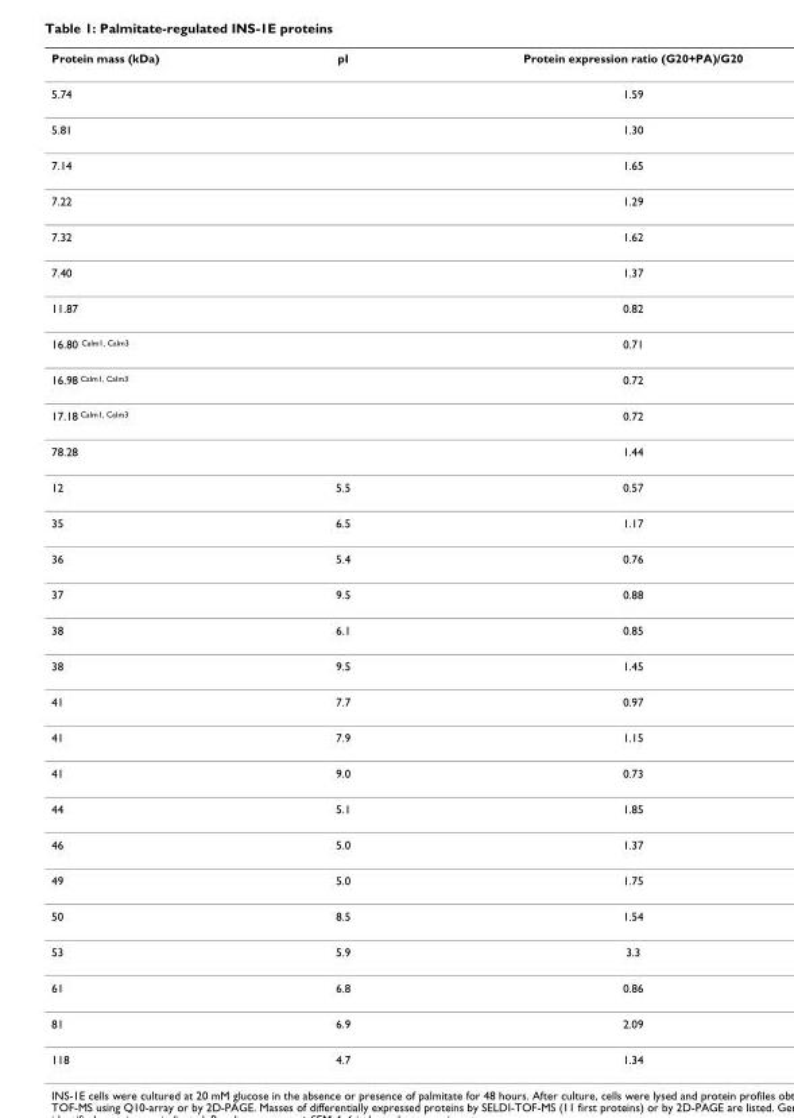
<table><thead><tr><td>Protein mass (kDa)</td><td>pI</td><td>Protein expression ratio (G20+PA)/G20</td></tr></thead><tbody><tr><td>5.74</td><td></td><td>1.59</td></tr><tr><td>5.81</td><td></td><td>1.30</td></tr><tr><td>7.14</td><td></td><td>1.65</td></tr><tr><td>7.22</td><td></td><td>1.29</td></tr><tr><td>7.32</td><td></td><td>1.62</td></tr><tr><td>7.40</td><td></td><td>1.37</td></tr><tr><td>11.87</td><td></td><td>0.82</td></tr><tr><td>16.80 <sup>Calm1, Calm3</sup></td><td></td><td>0.71</td></tr><tr><td>16.98 <sup>Calm1, Calm3</sup></td><td></td><td>0.72</td></tr><tr><td>17.18 <sup>Calm1, Calm3</sup></td><td></td><td>0.72</td></tr><tr><td>78.28</td><td></td><td>1.44</td></tr><tr><td>12</td><td>5.5</td><td>0.57</td></tr><tr><td>35</td><td>6.5</td><td>1.17</td></tr><tr><td>36</td><td>5.4</td><td>0.76</td></tr><tr><td>37</td><td>9.5</td><td>0.88</td></tr><tr><td>38</td><td>6.1</td><td>0.85</td></tr><tr><td>38</td><td>9.5</td><td>1.45</td></tr><tr><td>41</td><td>7.7</td><td>0.97</td></tr><tr><td>41</td><td>7.9</td><td>1.15</td></tr><tr><td>41</td><td>9.0</td><td>0.73</td></tr><tr><td>44</td><td>5.1</td><td>1.85</td></tr><tr><td>46</td><td>5.0</td><td>1.37</td></tr><tr><td>49</td><td>5.0</td><td>1.75</td></tr><tr><td>50</td><td>8.5</td><td>1.54</td></tr><tr><td>53</td><td>5.9</td><td>3.3</td></tr><tr><td>61</td><td>6.8</td><td>0.86</td></tr><tr><td>81</td><td>6.9</td><td>2.09</td></tr><tr><td>118</td><td>4.7</td><td>1.34</td></tr></tbody></table>